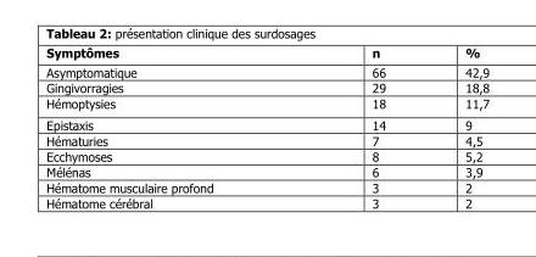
<table><thead><tr><td>Symptômes</td><td>n</td><td>%</td></tr></thead><tbody><tr><td>Asymptomatique</td><td>66</td><td>42,9</td></tr><tr><td>Gingivorragies</td><td>29</td><td>18,8</td></tr><tr><td>Hémoptysies</td><td>18</td><td>11,7</td></tr><tr><td>Epistaxis</td><td>14</td><td>9</td></tr><tr><td>Hématuries</td><td>7</td><td>4,5</td></tr><tr><td>Ecchymoses</td><td>8</td><td>5,2</td></tr><tr><td>Mélénas</td><td>6</td><td>3,9</td></tr><tr><td>Hématome musculaire profond</td><td>3</td><td>2</td></tr><tr><td>Hématome cérébral</td><td>3</td><td>2</td></tr></tbody></table>